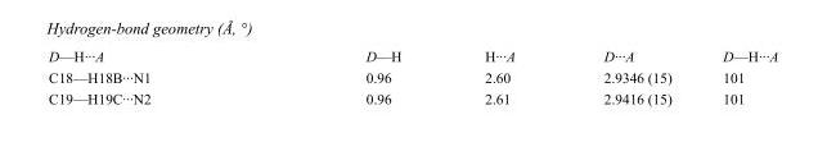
<table><tbody><tr><td>D—H···A</td><td>D—H</td><td>H···A</td><td>D···A</td><td>D—H···A</td></tr><tr><td>C18—H18B···N1</td><td>0.96</td><td>2.60</td><td>2.9346 (15)</td><td>101</td></tr><tr><td>C19—H19C···N2</td><td>0.96</td><td>2.61</td><td>2.9416 (15)</td><td>101</td></tr></tbody></table>